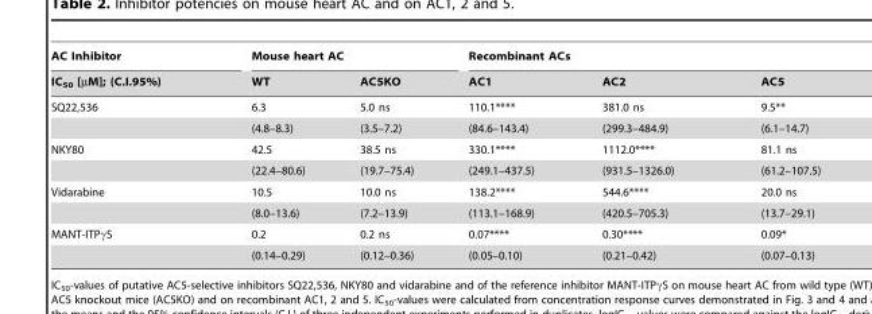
<table><thead><tr><td rowspan="2">AC Inhibitor IC<sub>50</sub> [µM]; (C.I.95%)</td><td colspan="2">Mouse heart AC</td><td colspan="3">Recombinant ACs</td></tr><tr><td>WT</td><td>AC5KO</td><td>AC1</td><td>AC2</td><td>AC5</td></tr></thead><tbody><tr><td rowspan="2">SQ22,536</td><td>6.3</td><td>5.0 ns</td><td>110.1****</td><td>381.0 ns</td><td>9.5**</td></tr><tr><td>(4.8–8.3)</td><td>(3.5–7.2)</td><td>(84.6–143.4)</td><td>(299.3–484.9)</td><td>(6.1–14.7)</td></tr><tr><td rowspan="2">NKY80</td><td>42.5</td><td>38.5 ns</td><td>330.1****</td><td>1112.0****</td><td>81.1 ns</td></tr><tr><td>(22.4–80.6)</td><td>(19.7–75.4)</td><td>(249.1–437.5)</td><td>(931.5–1326.0)</td><td>(61.2–107.5)</td></tr><tr><td rowspan="2">Vidarabine</td><td>10.5</td><td>10.0 ns</td><td>138.2****</td><td>544.6****</td><td>20.0 ns</td></tr><tr><td>(8.0–13.6)</td><td>(7.2–13.9)</td><td>(113.1–168.9)</td><td>(420.5–705.3)</td><td>(13.7–29.1)</td></tr><tr><td rowspan="2">MANT-ITPγS</td><td>0.2</td><td>0.2 ns</td><td>0.07****</td><td>0.30****</td><td>0.09*</td></tr><tr><td>(0.14–0.29)</td><td>(0.12–0.36)</td><td>(0.05–0.10)</td><td>(0.21–0.42)</td><td>(0.07–0.13)</td></tr></tbody></table>